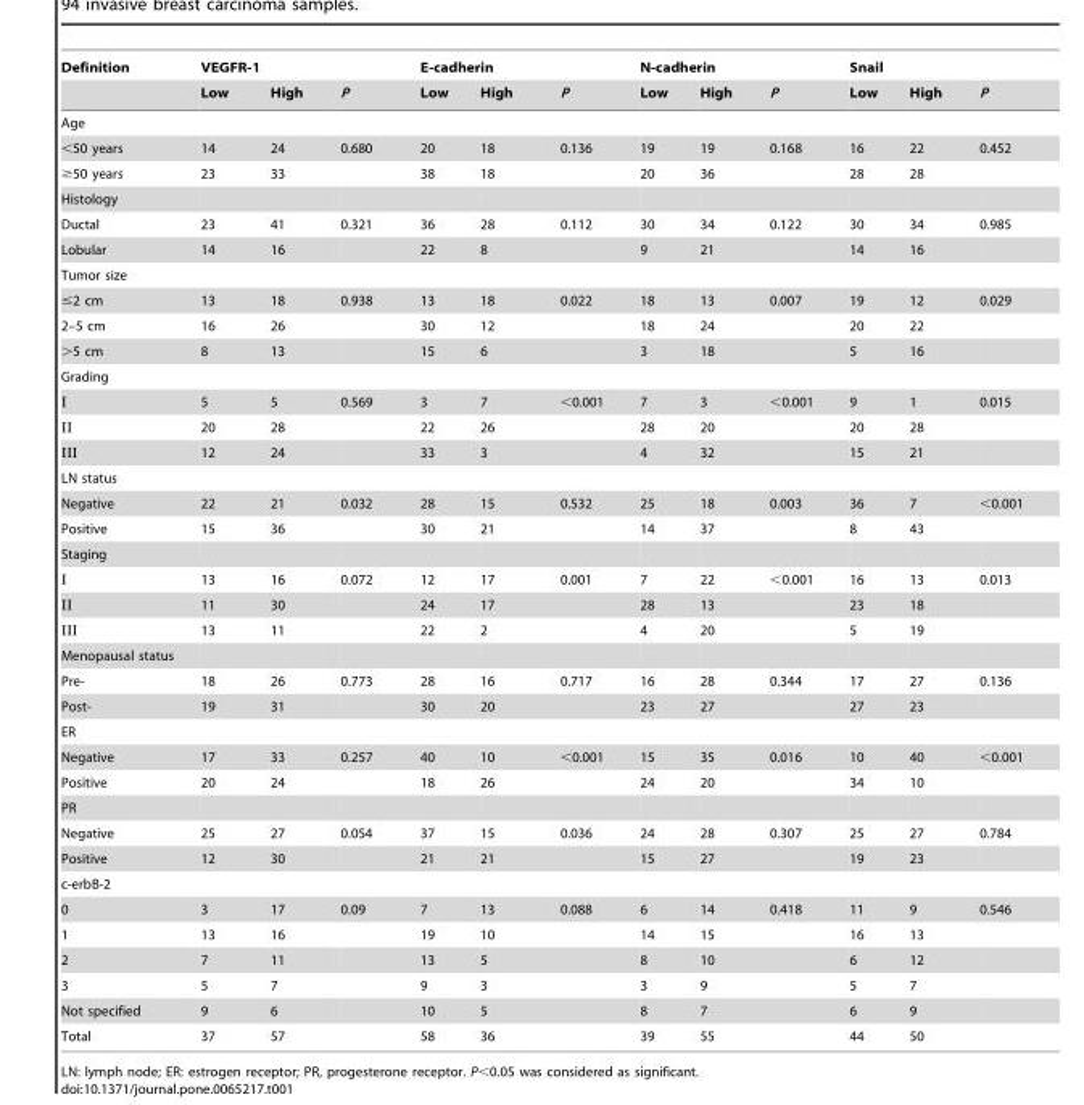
<table><thead><tr><td rowspan="2">Definition</td><td colspan="3">VEGFR-1</td><td colspan="3">E-cadherin</td><td colspan="3">N-cadherin</td><td colspan="3">Snail</td></tr><tr><td>Low</td><td>High</td><td>P</td><td>Low</td><td>High</td><td>P</td><td>Low</td><td>High</td><td>P</td><td>Low</td><td>High</td><td>P</td></tr></thead><tbody><tr><td colspan="13">Age</td></tr><tr><td>&lt;50 years</td><td>14</td><td>24</td><td>0.680</td><td>20</td><td>18</td><td>0.136</td><td>19</td><td>19</td><td>0.168</td><td>16</td><td>22</td><td>0.452</td></tr><tr><td>≥50 years</td><td>23</td><td>33</td><td></td><td>38</td><td>18</td><td></td><td>20</td><td>36</td><td></td><td>28</td><td>28</td><td></td></tr><tr><td colspan="13">Histology</td></tr><tr><td>Ductal</td><td>23</td><td>41</td><td>0.321</td><td>36</td><td>28</td><td>0.112</td><td>30</td><td>34</td><td>0.122</td><td>30</td><td>34</td><td>0.985</td></tr><tr><td>Lobular</td><td>14</td><td>16</td><td></td><td>22</td><td>8</td><td></td><td>9</td><td>21</td><td></td><td>14</td><td>16</td><td></td></tr><tr><td colspan="13">Tumor size</td></tr><tr><td>≤2 cm</td><td>13</td><td>18</td><td>0.938</td><td>13</td><td>18</td><td>0.022</td><td>18</td><td>13</td><td>0.007</td><td>19</td><td>12</td><td>0.029</td></tr><tr><td>2–5 cm</td><td>16</td><td>26</td><td></td><td>30</td><td>12</td><td></td><td>18</td><td>24</td><td></td><td>20</td><td>22</td><td></td></tr><tr><td>&gt;5 cm</td><td>8</td><td>13</td><td></td><td>15</td><td>6</td><td></td><td>3</td><td>18</td><td></td><td>5</td><td>16</td><td></td></tr><tr><td colspan="13">Grading</td></tr><tr><td>I</td><td>5</td><td>5</td><td>0.569</td><td>3</td><td>7</td><td>&lt;0.001</td><td>7</td><td>3</td><td>&lt;0.001</td><td>9</td><td>1</td><td>0.015</td></tr><tr><td>II</td><td>20</td><td>28</td><td></td><td>22</td><td>26</td><td></td><td>28</td><td>20</td><td></td><td>20</td><td>28</td><td></td></tr><tr><td>III</td><td>12</td><td>24</td><td></td><td>33</td><td>3</td><td></td><td>4</td><td>32</td><td></td><td>15</td><td>21</td><td></td></tr><tr><td colspan="13">LN status</td></tr><tr><td>Negative</td><td>22</td><td>21</td><td>0.032</td><td>28</td><td>15</td><td>0.532</td><td>25</td><td>18</td><td>0.003</td><td>36</td><td>7</td><td>&lt;0.001</td></tr><tr><td>Positive</td><td>15</td><td>36</td><td></td><td>30</td><td>21</td><td></td><td>14</td><td>37</td><td></td><td>8</td><td>43</td><td></td></tr><tr><td colspan="13">Staging</td></tr><tr><td>I</td><td>13</td><td>16</td><td>0.072</td><td>12</td><td>17</td><td>0.001</td><td>7</td><td>22</td><td>&lt;0.001</td><td>16</td><td>13</td><td>0.013</td></tr><tr><td>II</td><td>11</td><td>30</td><td></td><td>24</td><td>17</td><td></td><td>28</td><td>13</td><td></td><td>23</td><td>18</td><td></td></tr><tr><td>III</td><td>13</td><td>11</td><td></td><td>22</td><td>2</td><td></td><td>4</td><td>20</td><td></td><td>5</td><td>19</td><td></td></tr><tr><td colspan="13">Menopausal status</td></tr><tr><td>Pre-</td><td>18</td><td>26</td><td>0.773</td><td>28</td><td>16</td><td>0.717</td><td>16</td><td>28</td><td>0.344</td><td>17</td><td>27</td><td>0.136</td></tr><tr><td>Post-</td><td>19</td><td>31</td><td></td><td>30</td><td>20</td><td></td><td>23</td><td>27</td><td></td><td>27</td><td>23</td><td></td></tr><tr><td colspan="13">ER</td></tr><tr><td>Negative</td><td>17</td><td>33</td><td>0.257</td><td>40</td><td>10</td><td>&lt;0.001</td><td>15</td><td>35</td><td>0.016</td><td>10</td><td>40</td><td>&lt;0.001</td></tr><tr><td>Positive</td><td>20</td><td>24</td><td></td><td>18</td><td>26</td><td></td><td>24</td><td>20</td><td></td><td>34</td><td>10</td><td></td></tr><tr><td colspan="13">PR</td></tr><tr><td>Negative</td><td>25</td><td>27</td><td>0.054</td><td>37</td><td>15</td><td>0.036</td><td>24</td><td>28</td><td>0.307</td><td>25</td><td>27</td><td>0.784</td></tr><tr><td>Positive</td><td>12</td><td>30</td><td></td><td>21</td><td>21</td><td></td><td>15</td><td>27</td><td></td><td>19</td><td>23</td><td></td></tr><tr><td colspan="13">c-erbB-2</td></tr><tr><td>0</td><td>3</td><td>17</td><td>0.09</td><td>7</td><td>13</td><td>0.088</td><td>6</td><td>14</td><td>0.418</td><td>11</td><td>9</td><td>0.546</td></tr><tr><td>1</td><td>13</td><td>16</td><td></td><td>19</td><td>10</td><td></td><td>14</td><td>15</td><td></td><td>16</td><td>13</td><td></td></tr><tr><td>2</td><td>7</td><td>11</td><td></td><td>13</td><td>5</td><td></td><td>8</td><td>10</td><td></td><td>6</td><td>12</td><td></td></tr><tr><td>3</td><td>5</td><td>7</td><td></td><td>9</td><td>3</td><td></td><td>3</td><td>9</td><td></td><td>5</td><td>7</td><td></td></tr><tr><td>Not specified</td><td>9</td><td>6</td><td></td><td>10</td><td>5</td><td></td><td>8</td><td>7</td><td></td><td>6</td><td>9</td><td></td></tr><tr><td>Total</td><td>37</td><td>57</td><td></td><td>58</td><td>36</td><td></td><td>39</td><td>55</td><td></td><td>44</td><td>50</td><td></td></tr></tbody></table>